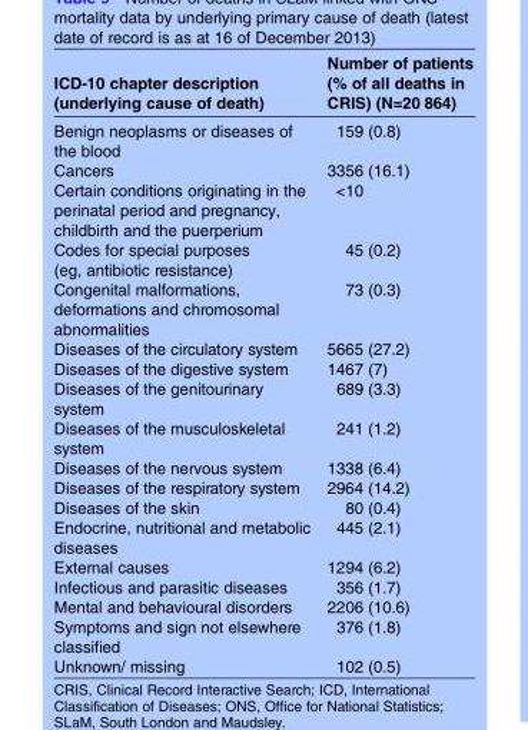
<table><thead><tr><td>ICD-10 chapter description (underlying cause of death)</td><td>Number of patients (% of all deaths in CRIS) (N=20 864)</td></tr></thead><tbody><tr><td>Benign neoplasms or diseases of the blood</td><td>159 (0.8)</td></tr><tr><td>Cancers</td><td>3356 (16.1)</td></tr><tr><td>Certain conditions originating in the perinatal period and pregnancy, childbirth and the puerperium</td><td>&lt;10</td></tr><tr><td>Codes for special purposes (eg, antibiotic resistance)</td><td>45 (0.2)</td></tr><tr><td>Congenital malformations, deformations and chromosomal abnormalities</td><td>73 (0.3)</td></tr><tr><td>Diseases of the circulatory system</td><td>5665 (27.2)</td></tr><tr><td>Diseases of the digestive system</td><td>1467 (7)</td></tr><tr><td>Diseases of the genitourinary system</td><td>689 (3.3)</td></tr><tr><td>Diseases of the musculoskeletal system</td><td>241 (1.2)</td></tr><tr><td>Diseases of the nervous system</td><td>1338 (6.4)</td></tr><tr><td>Diseases of the respiratory system</td><td>2964 (14.2)</td></tr><tr><td>Diseases of the skin</td><td>80 (0.4)</td></tr><tr><td>Endocrine, nutritional and metabolic diseases</td><td>445 (2.1)</td></tr><tr><td>External causes</td><td>1294 (6.2)</td></tr><tr><td>Infectious and parasitic diseases</td><td>356 (1.7)</td></tr><tr><td>Mental and behavioural disorders</td><td>2206 (10.6)</td></tr><tr><td>Symptoms and sign not elsewhere classified</td><td>376 (1.8)</td></tr><tr><td>Unknown/ missing</td><td>102 (0.5)</td></tr></tbody></table>